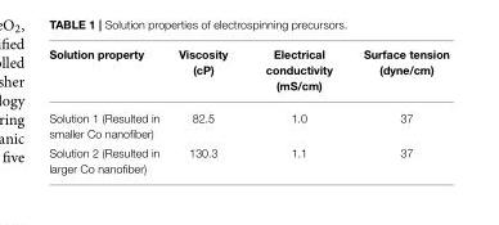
<table><thead><tr><td>Solution property</td><td>Viscosity (cP)</td><td>Electrical conductivity (mS/cm)</td><td>Surface tension (dyne/cm)</td></tr></thead><tbody><tr><td>Solution 1 (Resulted in smaller Co nanofiber)</td><td>82.5</td><td>1.0</td><td>37</td></tr><tr><td>Solution 2 (Resulted in larger Co nanofiber)</td><td>130.3</td><td>1.1</td><td>37</td></tr></tbody></table>